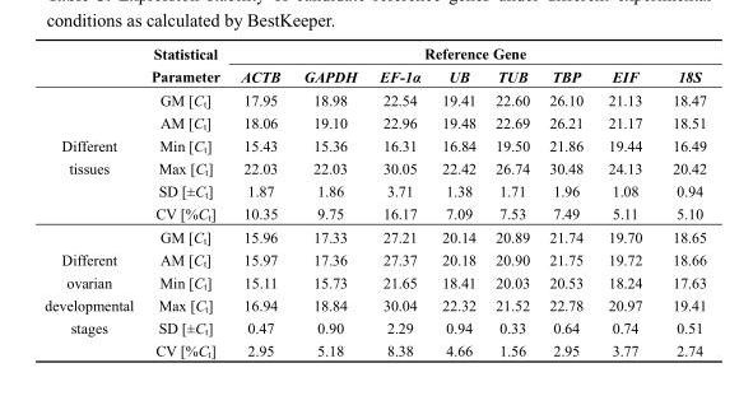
<table><thead><tr><td rowspan="2"></td><td rowspan="2">Statistical Parameter</td><td colspan="8">Reference Gene</td></tr><tr><td>ACTB</td><td>GAPDH</td><td>EF-1α</td><td>UB</td><td>TUB</td><td>TBP</td><td>EIF</td><td>18S</td></tr></thead><tbody><tr><td rowspan="6">Different tissues</td><td>GM [C<sub>t</sub>]</td><td>17.95</td><td>18.98</td><td>22.54</td><td>19.41</td><td>22.60</td><td>26.10</td><td>21.13</td><td>18.47</td></tr><tr><td>AM [C<sub>t</sub>]</td><td>18.06</td><td>19.10</td><td>22.96</td><td>19.48</td><td>22.69</td><td>26.21</td><td>21.17</td><td>18.51</td></tr><tr><td>Min [C<sub>t</sub>]</td><td>15.43</td><td>15.36</td><td>16.31</td><td>16.84</td><td>19.50</td><td>21.86</td><td>19.44</td><td>16.49</td></tr><tr><td>Max [C<sub>t</sub>]</td><td>22.03</td><td>22.03</td><td>30.05</td><td>22.42</td><td>26.74</td><td>30.48</td><td>24.13</td><td>20.42</td></tr><tr><td>SD [±C<sub>t</sub>]</td><td>1.87</td><td>1.86</td><td>3.71</td><td>1.38</td><td>1.71</td><td>1.96</td><td>1.08</td><td>0.94</td></tr><tr><td>CV [%C<sub>t</sub>]</td><td>10.35</td><td>9.75</td><td>16.17</td><td>7.09</td><td>7.53</td><td>7.49</td><td>5.11</td><td>5.10</td></tr><tr><td rowspan="6">Different ovarian developmental stages</td><td>GM [C<sub>t</sub>]</td><td>15.96</td><td>17.33</td><td>27.21</td><td>20.14</td><td>20.89</td><td>21.74</td><td>19.70</td><td>18.65</td></tr><tr><td>AM [C<sub>t</sub>]</td><td>15.97</td><td>17.36</td><td>27.37</td><td>20.18</td><td>20.90</td><td>21.75</td><td>19.72</td><td>18.66</td></tr><tr><td>Min [C<sub>t</sub>]</td><td>15.11</td><td>15.73</td><td>21.65</td><td>18.41</td><td>20.03</td><td>20.53</td><td>18.24</td><td>17.63</td></tr><tr><td>Max [C<sub>t</sub>]</td><td>16.94</td><td>18.84</td><td>30.04</td><td>22.32</td><td>21.52</td><td>22.78</td><td>20.97</td><td>19.41</td></tr><tr><td>SD [±C<sub>t</sub>]</td><td>0.47</td><td>0.90</td><td>2.29</td><td>0.94</td><td>0.33</td><td>0.64</td><td>0.74</td><td>0.51</td></tr><tr><td>CV [%C<sub>t</sub>]</td><td>2.95</td><td>5.18</td><td>8.38</td><td>4.66</td><td>1.56</td><td>2.95</td><td>3.77</td><td>2.74</td></tr></tbody></table>